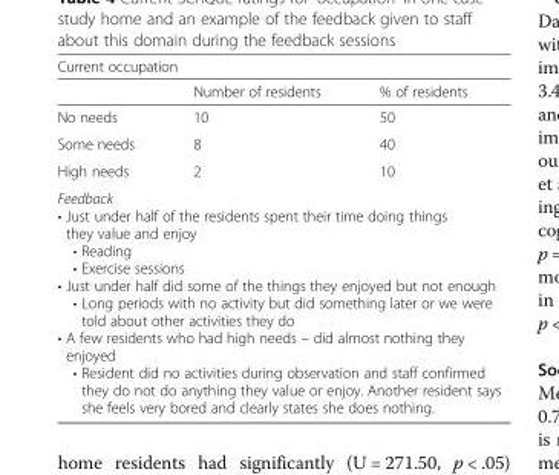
<table><thead><tr><td colspan="3">Current occupation</td></tr><tr><td></td><td>Number of residents</td><td>% of residents</td></tr></thead><tbody><tr><td>No needs</td><td>10</td><td>50</td></tr><tr><td>Some needs</td><td>8</td><td>40</td></tr><tr><td>High needs</td><td>2</td><td>10</td></tr><tr><td colspan="3">Feedback • Just under half of the residents spent their time doing things they value and enjoy • Reading • Exercise sessions • Just under half did some of the things they enjoyed but not enough • Long periods with no activity but did something later or we were told about other activities they do • A few residents who had high needs – did almost nothing they enjoyed • Resident did no activities during observation and staff confirmed they do not do anything they value or enjoy. Another resident says she feels very bored and clearly states she does nothing.</td></tr></tbody></table>